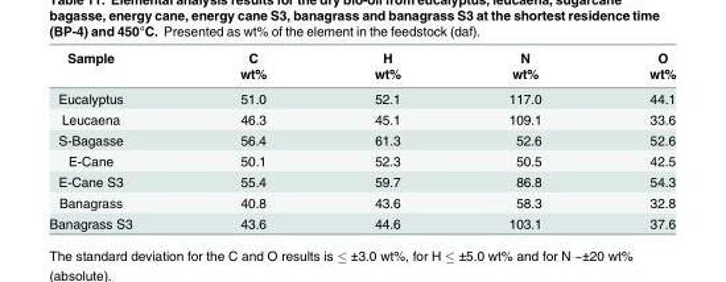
<table><thead><tr><td rowspan="2">Sample</td><td rowspan="2">C wt%</td><td rowspan="2">H wt%</td><td rowspan="2">N wt%</td><td rowspan="2">O wt%</td></tr><tr></tr></thead><tbody><tr><td>Eucalyptus</td><td>51.0</td><td>52.1</td><td>117.0</td><td>44.1</td></tr><tr><td>Leucaena</td><td>46.3</td><td>45.1</td><td>109.1</td><td>33.6</td></tr><tr><td>S-Bagasse</td><td>56.4</td><td>61.3</td><td>52.6</td><td>52.6</td></tr><tr><td>E-Cane</td><td>50.1</td><td>52.3</td><td>50.5</td><td>42.5</td></tr><tr><td>E-Cane S3</td><td>55.4</td><td>59.7</td><td>86.8</td><td>54.3</td></tr><tr><td>Banagrass</td><td>40.8</td><td>43.6</td><td>58.3</td><td>32.8</td></tr><tr><td>Banagrass S3</td><td>43.6</td><td>44.6</td><td>103.1</td><td>37.6</td></tr></tbody></table>